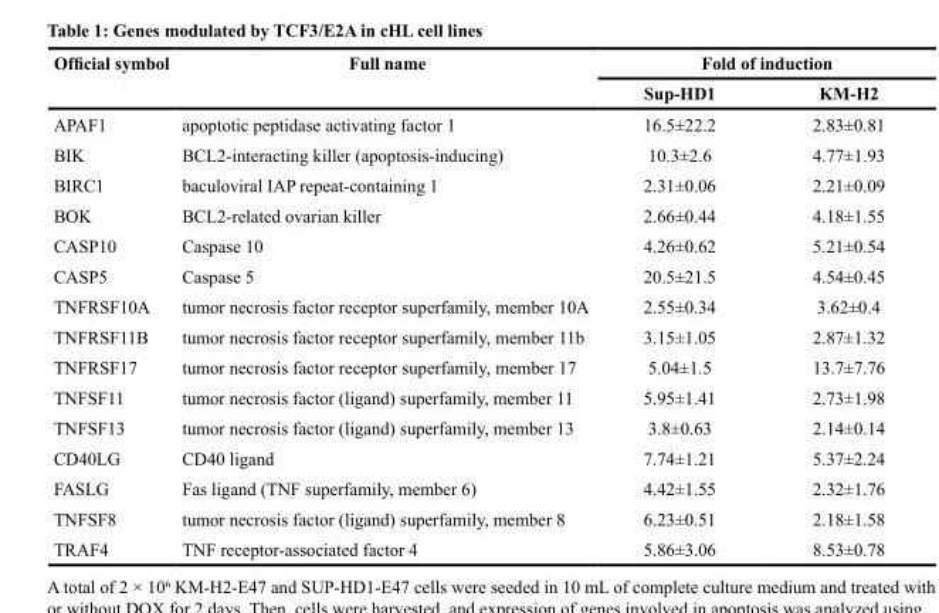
<table><thead><tr><td rowspan="2">Official symbol</td><td rowspan="2">Full name</td><td colspan="2">Fold of induction</td></tr><tr><td>Sup-HD1</td><td>KM-H2</td></tr></thead><tbody><tr><td>APAF1</td><td>apoptotic peptidase activating factor 1</td><td>16.5±22.2</td><td>2.83±0.81</td></tr><tr><td>BIK</td><td>BCL2-interacting killer (apoptosis-inducing)</td><td>10.3±2.6</td><td>4.77±1.93</td></tr><tr><td>BIRC1</td><td>baculoviral IAP repeat-containing 1</td><td>2.31±0.06</td><td>2.21±0.09</td></tr><tr><td>BOK</td><td>BCL2-related ovarian killer</td><td>2.66±0.44</td><td>4.18±1.55</td></tr><tr><td>CASP10</td><td>Caspase 10</td><td>4.26±0.62</td><td>5.21±0.54</td></tr><tr><td>CASP5</td><td>Caspase 5</td><td>20.5±21.5</td><td>4.54±0.45</td></tr><tr><td>TNFRSF10A</td><td>tumor necrosis factor receptor superfamily, member 10A</td><td>2.55±0.34</td><td>3.62±0.4</td></tr><tr><td>TNFRSF11B</td><td>tumor necrosis factor receptor superfamily, member 11b</td><td>3.15±1.05</td><td>2.87±1.32</td></tr><tr><td>TNFRSF17</td><td>tumor necrosis factor receptor superfamily, member 17</td><td>5.04±1.5</td><td>13.7±7.76</td></tr><tr><td>TNFSF11</td><td>tumor necrosis factor (ligand) superfamily, member 11</td><td>5.95±1.41</td><td>2.73±1.98</td></tr><tr><td>TNFSF13</td><td>tumor necrosis factor (ligand) superfamily, member 13</td><td>3.8±0.63</td><td>2.14±0.14</td></tr><tr><td>CD40LG</td><td>CD40 ligand</td><td>7.74±1.21</td><td>5.37±2.24</td></tr><tr><td>FASLG</td><td>Fas ligand (TNF superfamily, member 6)</td><td>4.42±1.55</td><td>2.32±1.76</td></tr><tr><td>TNFSF8</td><td>tumor necrosis factor (ligand) superfamily, member 8</td><td>6.23±0.51</td><td>2.18±1.58</td></tr><tr><td>TRAF4</td><td>TNF receptor-associated factor 4</td><td>5.86±3.06</td><td>8.53±0.78</td></tr></tbody></table>